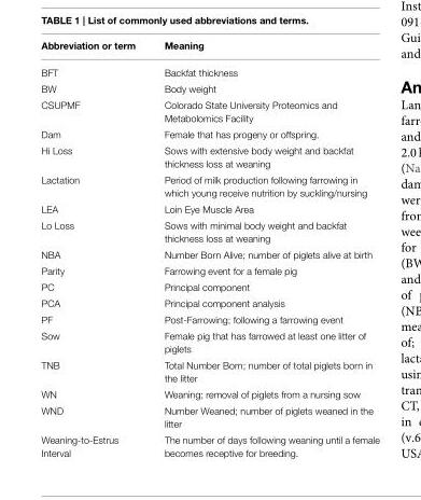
<table><thead><tr><td>Abbreviation or term</td><td>Meaning</td></tr></thead><tbody><tr><td>BFT</td><td>Backfat thickness</td></tr><tr><td>BW</td><td>Body weight</td></tr><tr><td>CSUPMF</td><td>Colorado State University Proteomics and Metabolomics Facility</td></tr><tr><td>Dam</td><td>Female that has progeny or offspring.</td></tr><tr><td>Hi Loss</td><td>Sows with extensive body weight and backfat thickness loss at weaning</td></tr><tr><td>Lactation</td><td>Period of milk production following farrowing in which young receive nutrition by suckling/nursing</td></tr><tr><td>LEA</td><td>Loin Eye Muscle Area</td></tr><tr><td>Lo Loss</td><td>Sows with minimal body weight and backfat thickness loss at weaning</td></tr><tr><td>NBA</td><td>Number Born Alive; number of piglets alive at birth</td></tr><tr><td>Parity</td><td>Farrowing event for a female pig</td></tr><tr><td>PC</td><td>Principal component</td></tr><tr><td>PCA</td><td>Principal component analysis</td></tr><tr><td>PF</td><td>Post-Farrowing; following a farrowing event</td></tr><tr><td>Sow</td><td>Female pig that has farrowed at least one litter of piglets</td></tr><tr><td>TNB</td><td>Total Number Born; number of total piglets born in the litter</td></tr><tr><td>WN</td><td>Weaning; removal of piglets from a nursing sow</td></tr><tr><td>WND</td><td>Number Weaned; number of piglets weaned in the litter</td></tr><tr><td>Weaning-to-Estrus Interval</td><td>The number of days following weaning until a female becomes receptive for breeding.</td></tr></tbody></table>